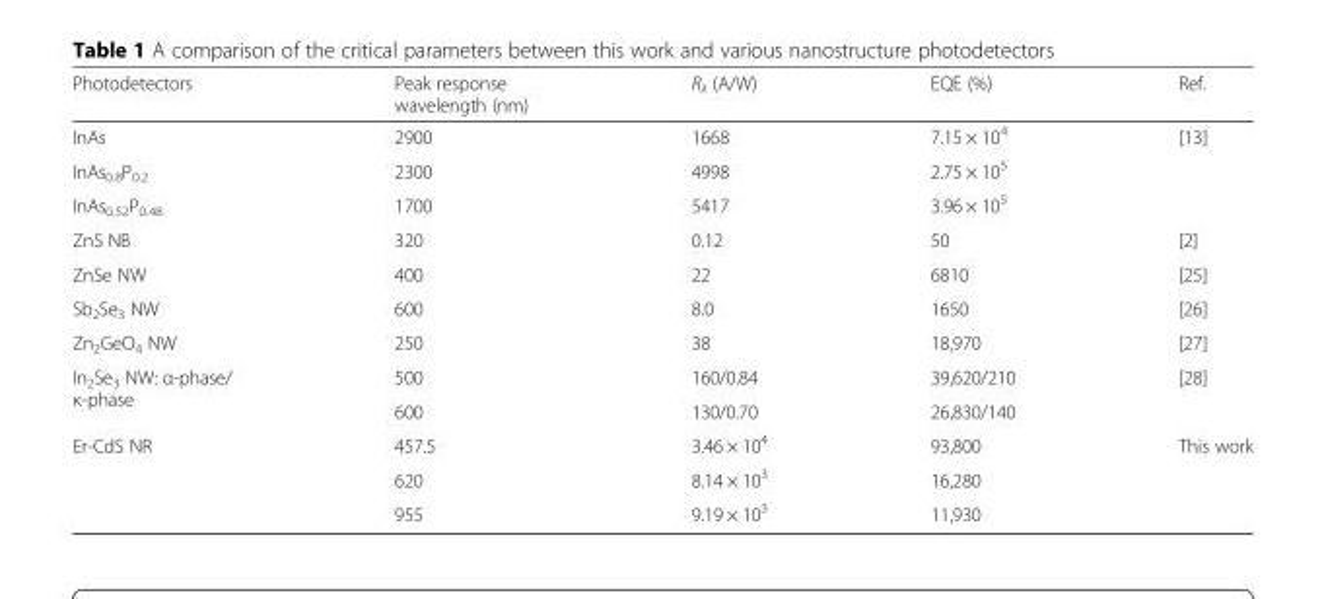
<table><thead><tr><td>Photodetectors</td><td>Peak response wavelength (nm)</td><td>R<sub>λ</sub> (A/W)</td><td>EQE (%)</td><td>Ref.</td></tr></thead><tbody><tr><td>InAs</td><td>2900</td><td>1668</td><td>7.15 × 10<sup>4</sup></td><td rowspan="3">[13]</td></tr><tr><td>InAs<sub>0.8</sub>P<sub>0.2</sub></td><td>2300</td><td>4998</td><td>2.75 × 10<sup>5</sup></td></tr><tr><td>InAs<sub>0.52</sub>P<sub>0.48</sub></td><td>1700</td><td>5417</td><td>3.96 × 10<sup>5</sup></td></tr><tr><td>ZnS NB</td><td>320</td><td>0.12</td><td>50</td><td>[2]</td></tr><tr><td>ZnSe NW</td><td>400</td><td>22</td><td>6810</td><td>[25]</td></tr><tr><td>Sb<sub>2</sub>Se<sub>3</sub> NW</td><td>600</td><td>8.0</td><td>1650</td><td>[26]</td></tr><tr><td>Zn<sub>2</sub>GeO<sub>4</sub> NW</td><td>250</td><td>38</td><td>18,970</td><td>[27]</td></tr><tr><td rowspan="2">In<sub>2</sub>Se<sub>3</sub> NW: α-phase/ κ-phase</td><td>500</td><td>160/0.84</td><td>39,620/210</td><td rowspan="2">[28]</td></tr><tr><td>600</td><td>130/0.70</td><td>26,830/140</td></tr><tr><td rowspan="3">Er-CdS NR</td><td>457.5</td><td>3.46 × 10<sup>4</sup></td><td>93,800</td><td rowspan="3">This work</td></tr><tr><td>620</td><td>8.14 × 10<sup>3</sup></td><td>16,280</td></tr><tr><td>955</td><td>9.19 × 10<sup>3</sup></td><td>11,930</td></tr></tbody></table>